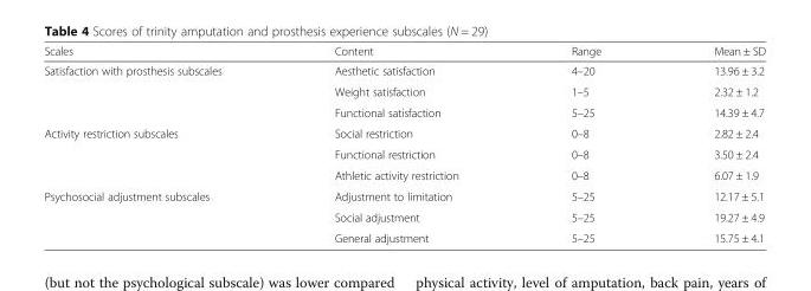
<table><thead><tr><td>Scales</td><td>Content</td><td>Range</td><td>Mean ± SD</td></tr></thead><tbody><tr><td rowspan="3">Satisfaction with prosthesis subscales</td><td>Aesthetic satisfaction</td><td>4–20</td><td>13.96 ± 3.2</td></tr><tr><td>Weight satisfaction</td><td>1–5</td><td>2.32 ± 1.2</td></tr><tr><td>Functional satisfaction</td><td>5–25</td><td>14.39 ± 4.7</td></tr><tr><td rowspan="3">Activity restriction subscales</td><td>Social restriction</td><td>0–8</td><td>2.82 ± 2.4</td></tr><tr><td>Functional restriction</td><td>0–8</td><td>3.50 ± 2.4</td></tr><tr><td>Athletic activity restriction</td><td>0–8</td><td>6.07 ± 1.9</td></tr><tr><td rowspan="3">Psychosocial adjustment subscales</td><td>Adjustment to limitation</td><td>5–25</td><td>12.17 ± 5.1</td></tr><tr><td>Social adjustment</td><td>5–25</td><td>19.27 ± 4.9</td></tr><tr><td>General adjustment</td><td>5–25</td><td>15.75 ± 4.1</td></tr></tbody></table>